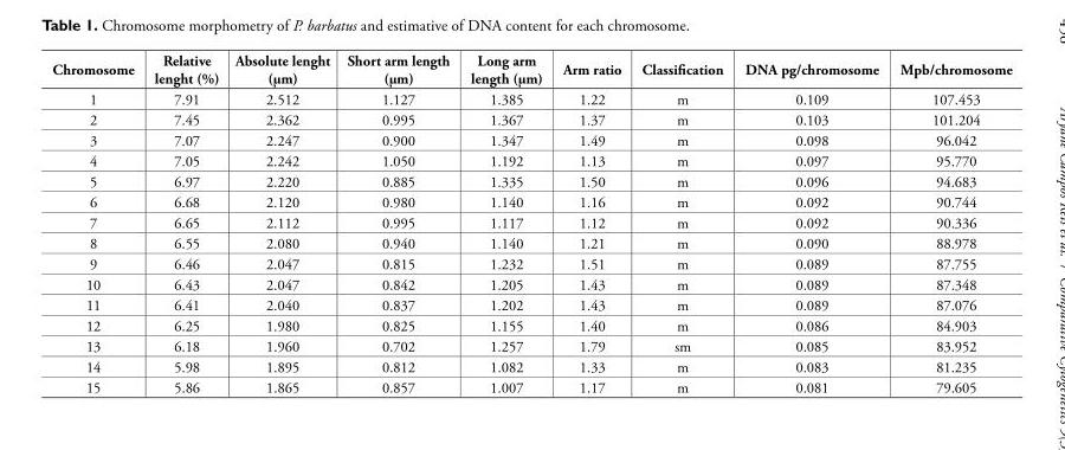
<table><thead><tr><td>Chromosome</td><td>Relative lenght (%)</td><td>Absolute lenght (µm)</td><td>Short arm length (µm)</td><td>Long arm length (µm)</td><td>Arm ratio</td><td>Classification</td><td>DNA pg/chromosome</td><td>Mpb/chromosome</td></tr></thead><tbody><tr><td>1</td><td>7.91</td><td>2.512</td><td>1.127</td><td>1.385</td><td>1.22</td><td>m</td><td>0.109</td><td>107.453</td></tr><tr><td>2</td><td>7.45</td><td>2.362</td><td>0.995</td><td>1.367</td><td>1.37</td><td>m</td><td>0.103</td><td>101.204</td></tr><tr><td>3</td><td>7.07</td><td>2.247</td><td>0.900</td><td>1.347</td><td>1.49</td><td>m</td><td>0.098</td><td>96.042</td></tr><tr><td>4</td><td>7.05</td><td>2.242</td><td>1.050</td><td>1.192</td><td>1.13</td><td>m</td><td>0.097</td><td>95.770</td></tr><tr><td>5</td><td>6.97</td><td>2.220</td><td>0.885</td><td>1.335</td><td>1.50</td><td>m</td><td>0.096</td><td>94.683</td></tr><tr><td>6</td><td>6.68</td><td>2.120</td><td>0.980</td><td>1.140</td><td>1.16</td><td>m</td><td>0.092</td><td>90.744</td></tr><tr><td>7</td><td>6.65</td><td>2.112</td><td>0.995</td><td>1.117</td><td>1.12</td><td>m</td><td>0.092</td><td>90.336</td></tr><tr><td>8</td><td>6.55</td><td>2.080</td><td>0.940</td><td>1.140</td><td>1.21</td><td>m</td><td>0.090</td><td>88.978</td></tr><tr><td>9</td><td>6.46</td><td>2.047</td><td>0.815</td><td>1.232</td><td>1.51</td><td>m</td><td>0.089</td><td>87.755</td></tr><tr><td>10</td><td>6.43</td><td>2.047</td><td>0.842</td><td>1.205</td><td>1.43</td><td>m</td><td>0.089</td><td>87.348</td></tr><tr><td>11</td><td>6.41</td><td>2.040</td><td>0.837</td><td>1.202</td><td>1.43</td><td>m</td><td>0.089</td><td>87.076</td></tr><tr><td>12</td><td>6.25</td><td>1.980</td><td>0.825</td><td>1.155</td><td>1.40</td><td>m</td><td>0.086</td><td>84.903</td></tr><tr><td>13</td><td>6.18</td><td>1.960</td><td>0.702</td><td>1.257</td><td>1.79</td><td>sm</td><td>0.085</td><td>83.952</td></tr><tr><td>14</td><td>5.98</td><td>1.895</td><td>0.812</td><td>1.082</td><td>1.33</td><td>m</td><td>0.083</td><td>81.235</td></tr><tr><td>15</td><td>5.86</td><td>1.865</td><td>0.857</td><td>1.007</td><td>1.17</td><td>m</td><td>0.081</td><td>79.605</td></tr></tbody></table>